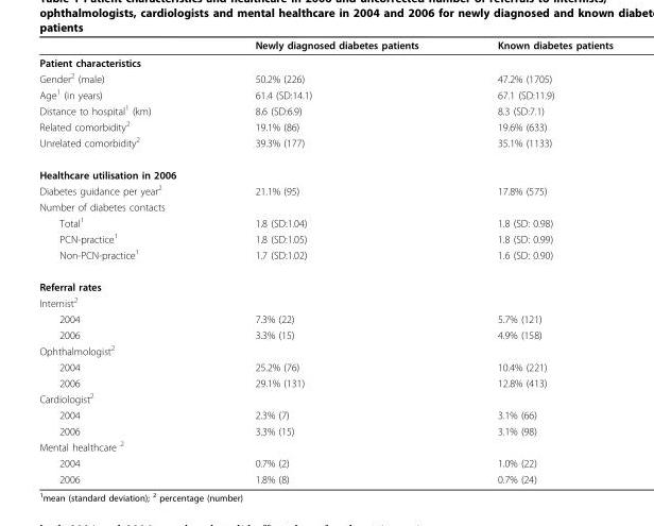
<table><thead><tr><td></td><td>Newly diagnosed diabetes patients</td><td>Known diabetes patients</td></tr></thead><tbody><tr><td colspan="3">Patient characteristics</td></tr><tr><td>Gender<sup>2</sup> (male)</td><td>50.2% (226)</td><td>47.2% (1705)</td></tr><tr><td>Age<sup>1</sup> (in years)</td><td>61.4 (SD:14.1)</td><td>67.1 (SD:11.9)</td></tr><tr><td>Distance to hospital<sup>1</sup> (km)</td><td>8.6 (SD:6.9)</td><td>8.3 (SD:7.1)</td></tr><tr><td>Related comorbidity<sup>2</sup></td><td>19.1% (86)</td><td>19.6% (633)</td></tr><tr><td>Unrelated comorbidity<sup>2</sup></td><td>39.3% (177)</td><td>35.1% (1133)</td></tr><tr><td colspan="3">Healthcare utilisation in 2006</td></tr><tr><td>Diabetes guidance per year<sup>2</sup></td><td>21.1% (95)</td><td>17.8% (575)</td></tr><tr><td colspan="3">Number of diabetes contacts</td></tr><tr><td>Total<sup>1</sup></td><td>1.8 (SD:1.04)</td><td>1.8 (SD: 0.98)</td></tr><tr><td>PCN-practice<sup>1</sup></td><td>1.8 (SD:1.05)</td><td>1.8 (SD: 0.99)</td></tr><tr><td>Non-PCN-practice<sup>1</sup></td><td>1.7 (SD:1.02)</td><td>1.6 (SD: 0.90)</td></tr><tr><td colspan="3">Referral rates</td></tr><tr><td colspan="3">Internist<sup>2</sup></td></tr><tr><td>2004</td><td>7.3% (22)</td><td>5.7% (121)</td></tr><tr><td>2006</td><td>3.3% (15)</td><td>4.9% (158)</td></tr><tr><td colspan="3">Ophthalmologist<sup>2</sup></td></tr><tr><td>2004</td><td>25.2% (76)</td><td>10.4% (221)</td></tr><tr><td>2006</td><td>29.1% (131)</td><td>12.8% (413)</td></tr><tr><td colspan="3">Cardiologist<sup>2</sup></td></tr><tr><td>2004</td><td>2.3% (7)</td><td>3.1% (66)</td></tr><tr><td>2006</td><td>3.3% (15)</td><td>3.1% (98)</td></tr><tr><td colspan="3">Mental healthcare <sup>2</sup></td></tr><tr><td>2004</td><td>0.7% (2)</td><td>1.0% (22)</td></tr><tr><td>2006</td><td>1.8% (8)</td><td>0.7% (24)</td></tr></tbody></table>